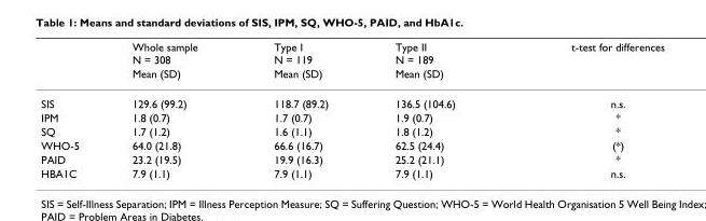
<table><thead><tr><td rowspan="2"></td><td rowspan="2">Whole sample N = 308 Mean (SD)</td><td rowspan="2">Type I N = 119 Mean (SD)</td><td rowspan="2">Type II N = 189 Mean (SD)</td><td rowspan="2">t-test for differences</td></tr><tr></tr></thead><tbody><tr><td>SIS</td><td>129.6 (99.2)</td><td>118.7 (89.2)</td><td>136.5 (104.6)</td><td>n.s.</td></tr><tr><td>IPM</td><td>1.8 (0.7)</td><td>1.7 (0.7)</td><td>1.9 (0.7)</td><td>*</td></tr><tr><td>SQ</td><td>1.7 (1.2)</td><td>1.6 (1.1)</td><td>1.8 (1.2)</td><td>*</td></tr><tr><td>WHO-5</td><td>64.0 (21.8)</td><td>66.6 (16.7)</td><td>62.5 (24.4)</td><td>(*)</td></tr><tr><td>PAID</td><td>23.2 (19.5)</td><td>19.9 (16.3)</td><td>25.2 (21.1)</td><td>*</td></tr><tr><td>HBA1C</td><td>7.9 (1.1)</td><td>7.9 (1.1)</td><td>7.9 (1.1)</td><td>n.s.</td></tr></tbody></table>